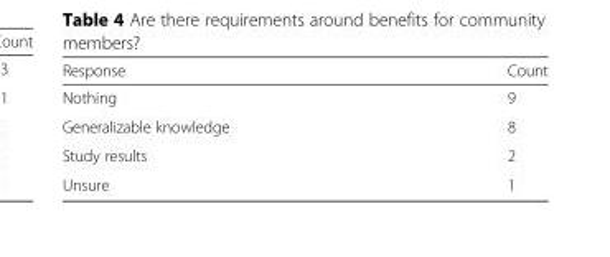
<table><thead><tr><td>Response</td><td>Count</td></tr></thead><tbody><tr><td>Nothing</td><td>9</td></tr><tr><td>Generalizable knowledge</td><td>8</td></tr><tr><td>Study results</td><td>2</td></tr><tr><td>Unsure</td><td>1</td></tr></tbody></table>